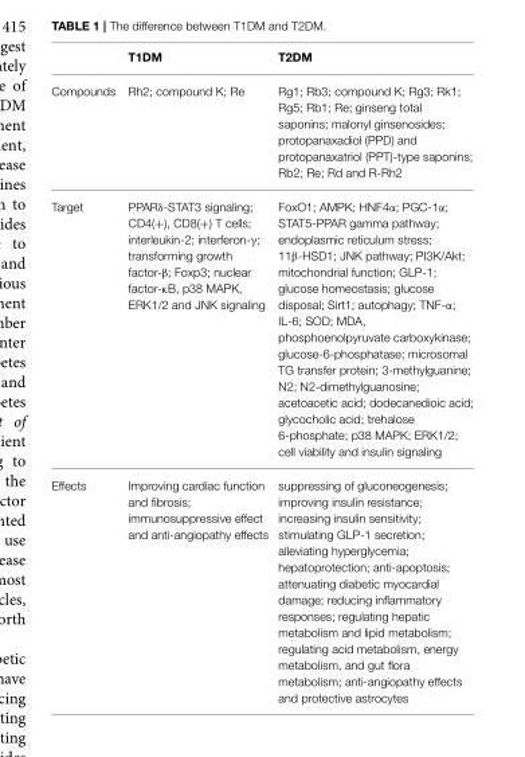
<table><thead><tr><td></td><td>T1DM</td><td>T2DM</td></tr></thead><tbody><tr><td>Compounds</td><td>Rh2; compound K; Re</td><td>Rg1; Rb3; compound K; Rg3; Rk1; Rg5; Rb1; Re; ginseng total saponins; malonyl ginsenosides; protopanaxadiol (PPD) and protopanaxatriol (PPT)-type saponins; Rb2; Re; Rd and R-Rh2</td></tr><tr><td>Target</td><td>PPARδ-STAT3 signaling; CD4(+), CD8(+) T cells; interleukin-2; interferon-γ; transforming growth factor-β; Foxp3; nuclear factor-κB, p38 MAPK, ERK1/2 and JNK signaling</td><td>FoxO1; AMPK; HNF4α; PGC-1α; STAT5-PPAR gamma pathway; endoplasmic reticulum stress; 11β-HSD1; JNK pathway; PI3K/Akt; mitochondrial function; GLP-1; glucose homeostasis; glucose disposal; Sirt1; autophagy; TNF-α; IL-6; SOD; MDA, phosphoenolpyruvate carboxykinase; glucose-6-phosphatase; microsomal TG transfer protein; 3-methylguanine; N2; N2-dimethylguanosine; acetoacetic acid; dodecanedioic acid; glycocholic acid; trehalose 6-phosphate; p38 MAPK; ERK1/2; cell viability and insulin signaling</td></tr><tr><td>Effects</td><td>Improving cardiac function and fibrosis; immunosuppressive effect and anti-angiopathy effects</td><td>suppressing of gluconeogenesis; improving insulin resistance; increasing insulin sensitivity; stimulating GLP-1 secretion; alleviating hyperglycemia; hepatoprotection; anti-apoptosis; attenuating diabetic myocardial damage; reducing inflammatory responses; regulating hepatic metabolism and lipid metabolism; regulating acid metabolism, energy metabolism, and gut flora metabolism; anti-angiopathy effects and protective astrocytes</td></tr></tbody></table>